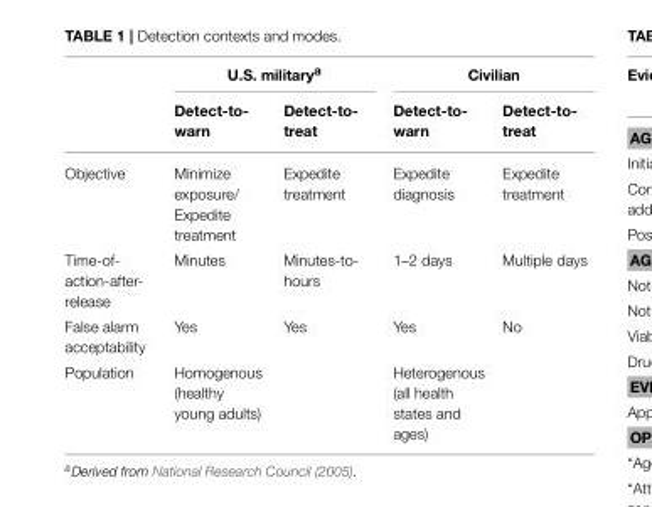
<table><thead><tr><td rowspan="2"></td><td colspan="2">U.S. military<sup>a</sup></td><td colspan="2">Civilian</td></tr><tr><td>Detect-to- warn</td><td>Detect-to- treat</td><td>Detect-to- warn</td><td>Detect-to- treat</td></tr></thead><tbody><tr><td>Objective</td><td>Minimize exposure/ Expedite treatment</td><td>Expedite treatment</td><td>Expedite diagnosis</td><td>Expedite treatment</td></tr><tr><td>Time-of- action-after- release</td><td>Minutes</td><td>Minutes-to- hours</td><td>1–2 days</td><td>Multiple days</td></tr><tr><td>False alarm acceptability</td><td>Yes</td><td>Yes</td><td>Yes</td><td>No</td></tr><tr><td>Population</td><td>Homogenous (healthy young adults)</td><td></td><td>Heterogenous (all health states and ages)</td><td></td></tr></tbody></table>